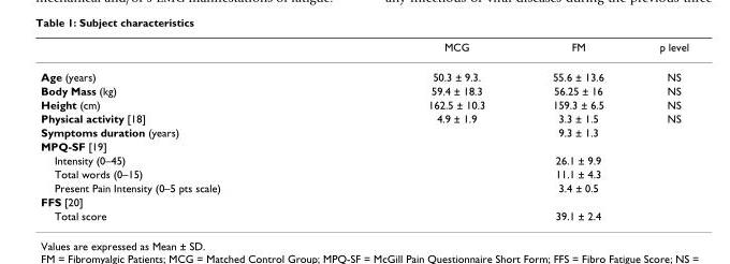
<table><thead><tr><td></td><td>MCG</td><td>FM</td><td>p level</td></tr></thead><tbody><tr><td>Age (years)</td><td>50.3 ± 9.3.</td><td>55.6 ± 13.6</td><td>NS</td></tr><tr><td>Body Mass (kg)</td><td>59.4 ± 18.3</td><td>56.25 ± 16</td><td>NS</td></tr><tr><td>Height (cm)</td><td>162.5 ± 10.3</td><td>159.3 ± 6.5</td><td>NS</td></tr><tr><td>Physical activity [18]</td><td>4.9 ± 1.9</td><td>3.3 ± 1.5</td><td>NS</td></tr><tr><td>Symptoms duration (years)</td><td></td><td>9.3 ± 1.3</td><td></td></tr><tr><td colspan="4">MPQ-SF [19]</td></tr><tr><td>Intensity (0–45)</td><td></td><td>26.1 ± 9.9</td><td></td></tr><tr><td>Total words (0–15)</td><td></td><td>11.1 ± 4.3</td><td></td></tr><tr><td>Present Pain Intensity (0–5 pts scale)</td><td></td><td>3.4 ± 0.5</td><td></td></tr><tr><td colspan="4">FFS [20]</td></tr><tr><td>Total score</td><td></td><td>39.1 ± 2.4</td><td></td></tr></tbody></table>